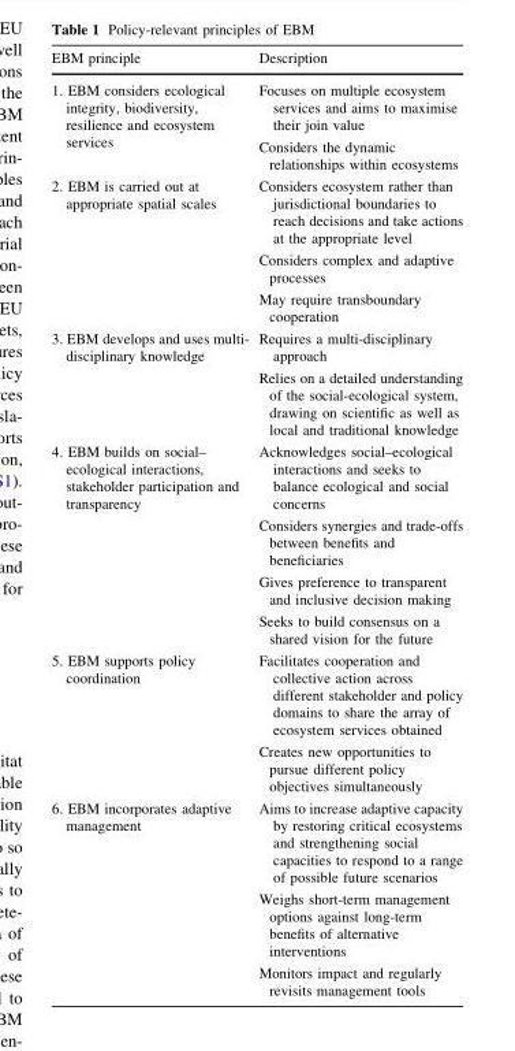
<table><thead><tr><td>EBM principle</td><td>Description</td></tr></thead><tbody><tr><td>1. EBM considers ecological integrity, biodiversity, resilience and ecosystem services</td><td>Focuses on multiple ecosystem services and aims to maximise their join value Considers the dynamic relationships within ecosystems</td></tr><tr><td>2. EBM is carried out at appropriate spatial scales</td><td>Considers ecosystem rather than jurisdictional boundaries to reach decisions and take actions at the appropriate level Considers complex and adaptive processes May require transboundary cooperation</td></tr><tr><td>3. EBM develops and uses multi- disciplinary knowledge</td><td>Requires a multi-disciplinary approach Relies on a detailed understanding of the social-ecological system, drawing on scientific as well as local and traditional knowledge</td></tr><tr><td>4. EBM builds on social– ecological interactions, stakeholder participation and transparency</td><td>Acknowledges social–ecological interactions and seeks to balance ecological and social concerns Considers synergies and trade-offs between benefits and beneficiaries Gives preference to transparent and inclusive decision making Seeks to build consensus on a shared vision for the future</td></tr><tr><td>5. EBM supports policy coordination</td><td>Facilitates cooperation and collective action across different stakeholder and policy domains to share the array of ecosystem services obtained Creates new opportunities to pursue different policy objectives simultaneously</td></tr><tr><td>6. EBM incorporates adaptive management</td><td>Aims to increase adaptive capacity by restoring critical ecosystems and strengthening social capacities to respond to a range of possible future scenarios Weighs short-term management options against long-term benefits of alternative interventions Monitors impact and regularly revisits management tools</td></tr></tbody></table>